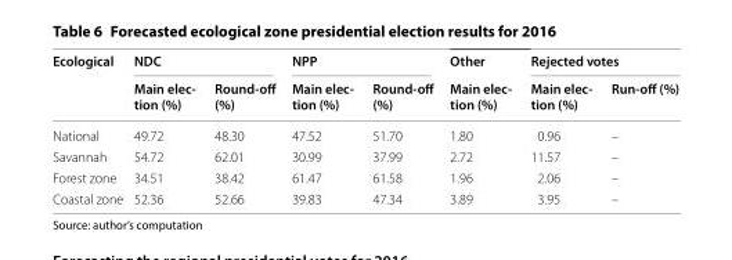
<table><thead><tr><td rowspan="2">Ecological</td><td colspan="2">NDC</td><td colspan="2">NPP</td><td rowspan="2">Other Main elec- tion (%)</td><td colspan="2">Rejected votes</td></tr><tr><td>Main elec- tion (%)</td><td>Round-off (%)</td><td>Main elec- tion (%)</td><td>Round-off (%)</td><td>Main elec- tion (%)</td><td>Run-off (%)</td></tr></thead><tbody><tr><td>National</td><td>49.72</td><td>48.30</td><td>47.52</td><td>51.70</td><td>1.80</td><td>0.96</td><td>–</td></tr><tr><td>Savannah</td><td>54.72</td><td>62.01</td><td>30.99</td><td>37.99</td><td>2.72</td><td>11.57</td><td>–</td></tr><tr><td>Forest zone</td><td>34.51</td><td>38.42</td><td>61.47</td><td>61.58</td><td>1.96</td><td>2.06</td><td>–</td></tr><tr><td>Coastal zone</td><td>52.36</td><td>52.66</td><td>39.83</td><td>47.34</td><td>3.89</td><td>3.95</td><td>–</td></tr></tbody></table>